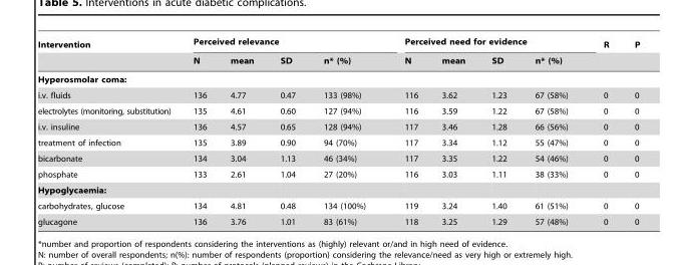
<table><thead><tr><td rowspan="2">Intervention</td><td colspan="4">Perceived relevance</td><td colspan="4">Perceived need for evidence</td><td rowspan="2">R</td><td rowspan="2">P</td></tr><tr><td>N</td><td>mean</td><td>SD</td><td>n* (%)</td><td>N</td><td>mean</td><td>SD</td><td>n* (%)</td></tr></thead><tbody><tr><td colspan="11">Hyperosmolar coma:</td></tr><tr><td>i.v. fluids</td><td>136</td><td>4.77</td><td>0.47</td><td>133 (98%)</td><td>116</td><td>3.62</td><td>1.23</td><td>67 (58%)</td><td>0</td><td>0</td></tr><tr><td>electrolytes (monitoring, substitution)</td><td>135</td><td>4.61</td><td>0.60</td><td>127 (94%)</td><td>116</td><td>3.59</td><td>1.22</td><td>67 (58%)</td><td>0</td><td>0</td></tr><tr><td>i.v. insuline</td><td>136</td><td>4.57</td><td>0.65</td><td>128 (94%)</td><td>117</td><td>3.46</td><td>1.28</td><td>66 (56%)</td><td>0</td><td>0</td></tr><tr><td>treatment of infection</td><td>135</td><td>3.89</td><td>0.90</td><td>94 (70%)</td><td>117</td><td>3.34</td><td>1.12</td><td>55 (47%)</td><td>0</td><td>0</td></tr><tr><td>bicarbonate</td><td>134</td><td>3.04</td><td>1.13</td><td>46 (34%)</td><td>117</td><td>3.35</td><td>1.22</td><td>54 (46%)</td><td>0</td><td>0</td></tr><tr><td>phosphate</td><td>133</td><td>2.61</td><td>1.04</td><td>27 (20%)</td><td>116</td><td>3.03</td><td>1.11</td><td>38 (33%)</td><td>0</td><td>0</td></tr><tr><td colspan="11">Hypoglycaemia:</td></tr><tr><td>carbohydrates, glucose</td><td>134</td><td>4.81</td><td>0.48</td><td>134 (100%)</td><td>119</td><td>3.24</td><td>1.40</td><td>61 (51%)</td><td>0</td><td>0</td></tr><tr><td>glucagone</td><td>136</td><td>3.76</td><td>1.01</td><td>83 (61%)</td><td>118</td><td>3.25</td><td>1.29</td><td>57 (48%)</td><td>0</td><td>0</td></tr></tbody></table>